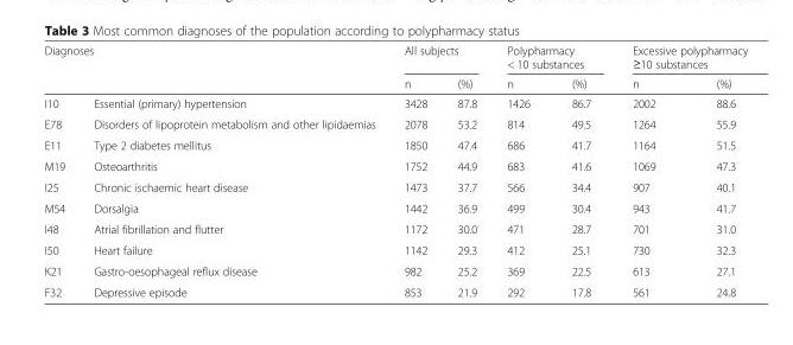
<table><thead><tr><td rowspan="2" colspan="2">Diagnoses</td><td colspan="2">All subjects</td><td colspan="2">Polypharmacy &lt; 10 substances</td><td colspan="2">Excessive polypharmacy ≥10 substances</td></tr><tr><td rowspan="2">n 3428</td><td rowspan="2">(%) 87.8</td><td rowspan="2">n 1426</td><td rowspan="2">(%) 86.7</td><td rowspan="2">n 2002</td><td rowspan="2">(%) 88.6</td></tr><tr><td>I10</td><td>Essential (primary) hypertension</td></tr></thead><tbody><tr><td>E78</td><td>Disorders of lipoprotein metabolism and other lipidaemias</td><td>2078</td><td>53.2</td><td>814</td><td>49.5</td><td>1264</td><td>55.9</td></tr><tr><td>E11</td><td>Type 2 diabetes mellitus</td><td>1850</td><td>47.4</td><td>686</td><td>41.7</td><td>1164</td><td>51.5</td></tr><tr><td>M19</td><td>Osteoarthritis</td><td>1752</td><td>44.9</td><td>683</td><td>41.6</td><td>1069</td><td>47.3</td></tr><tr><td>I25</td><td>Chronic ischaemic heart disease</td><td>1473</td><td>37.7</td><td>566</td><td>34.4</td><td>907</td><td>40.1</td></tr><tr><td>M54</td><td>Dorsalgia</td><td>1442</td><td>36.9</td><td>499</td><td>30.4</td><td>943</td><td>41.7</td></tr><tr><td>I48</td><td>Atrial fibrillation and flutter</td><td>1172</td><td>30.0</td><td>471</td><td>28.7</td><td>701</td><td>31.0</td></tr><tr><td>I50</td><td>Heart failure</td><td>1142</td><td>29.3</td><td>412</td><td>25.1</td><td>730</td><td>32.3</td></tr><tr><td>K21</td><td>Gastro-oesophageal reflux disease</td><td>982</td><td>25.2</td><td>369</td><td>22.5</td><td>613</td><td>27.1</td></tr><tr><td>F32</td><td>Depressive episode</td><td>853</td><td>21.9</td><td>292</td><td>17.8</td><td>561</td><td>24.8</td></tr></tbody></table>